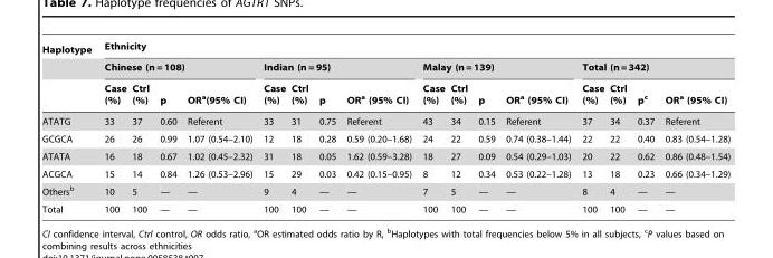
<table><thead><tr><td rowspan="3">Haplotype</td><td colspan="16">Ethnicity</td></tr><tr><td colspan="4">Chinese (n = 108)</td><td colspan="4">Indian (n = 95)</td><td colspan="4">Malay (n = 139)</td><td colspan="4">Total (n = 342)</td></tr><tr><td>Case (%)</td><td>Ctrl (%)</td><td>p</td><td>OR<sup>a</sup>(95% CI)</td><td>Case (%)</td><td>Ctrl (%)</td><td>p</td><td>OR<sup>a</sup> (95% CI)</td><td>Case (%)</td><td>Ctrl (%)</td><td>p</td><td>OR<sup>a</sup> (95% CI)</td><td>Case (%)</td><td>Ctrl (%)</td><td>p<sup>c</sup></td><td>OR<sup>a</sup> (95% CI)</td></tr></thead><tbody><tr><td>ATATG</td><td>33</td><td>37</td><td>0.60</td><td>Referent</td><td>33</td><td>31</td><td>0.75</td><td>Referent</td><td>43</td><td>34</td><td>0.15</td><td>Referent</td><td>37</td><td>34</td><td>0.37</td><td>Referent</td></tr><tr><td>GCGCA</td><td>26</td><td>26</td><td>0.99</td><td>1.07 (0.54–2.10)</td><td>12</td><td>18</td><td>0.28</td><td>0.59 (0.20–1.68)</td><td>24</td><td>22</td><td>0.59</td><td>0.74 (0.38–1.44)</td><td>22</td><td>22</td><td>0.40</td><td>0.83 (0.54–1.28)</td></tr><tr><td>ATATA</td><td>16</td><td>18</td><td>0.67</td><td>1.02 (0.45–2.32)</td><td>31</td><td>18</td><td>0.05</td><td>1.62 (0.59–3.28)</td><td>18</td><td>27</td><td>0.09</td><td>0.54 (0.29–1.03)</td><td>20</td><td>22</td><td>0.62</td><td>0.86 (0.48–1.54)</td></tr><tr><td>ACGCA</td><td>15</td><td>14</td><td>0.84</td><td>1.26 (0.53–2.96)</td><td>15</td><td>29</td><td>0.03</td><td>0.42 (0.15–0.95)</td><td>8</td><td>12</td><td>0.34</td><td>0.53 (0.22–1.28)</td><td>13</td><td>18</td><td>0.23</td><td>0.66 (0.34–1.29)</td></tr><tr><td>Others<sup>b</sup></td><td>10</td><td>5</td><td>—</td><td>—</td><td>9</td><td>4</td><td>—</td><td>—</td><td>7</td><td>5</td><td>—</td><td>—</td><td>8</td><td>4</td><td>—</td><td>—</td></tr><tr><td>Total</td><td>100</td><td>100</td><td>—</td><td>—</td><td>100</td><td>100</td><td>—</td><td>—</td><td>100</td><td>100</td><td>—</td><td>—</td><td>100</td><td>100</td><td>—</td><td>—</td></tr></tbody></table>